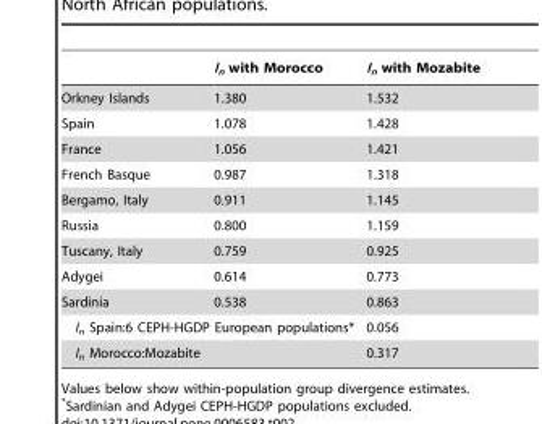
<table><thead><tr><td></td><td>I<sub>n</sub> with Morocco</td><td>I<sub>n</sub> with Mozabite</td></tr></thead><tbody><tr><td>Orkney Islands</td><td>1.380</td><td>1.532</td></tr><tr><td>Spain</td><td>1.078</td><td>1.428</td></tr><tr><td>France</td><td>1.056</td><td>1.421</td></tr><tr><td>French Basque</td><td>0.987</td><td>1.318</td></tr><tr><td>Bergamo, Italy</td><td>0.911</td><td>1.145</td></tr><tr><td>Russia</td><td>0.800</td><td>1.159</td></tr><tr><td>Tuscany, Italy</td><td>0.759</td><td>0.925</td></tr><tr><td>Adygei</td><td>0.614</td><td>0.773</td></tr><tr><td>Sardinia</td><td>0.538</td><td>0.863</td></tr><tr><td colspan="2">I<sub>n</sub> Spain:6 CEPH-HGDP European populations*</td><td>0.056</td></tr><tr><td colspan="2">I<sub>n</sub> Morocco:Mozabite</td><td>0.317</td></tr></tbody></table>